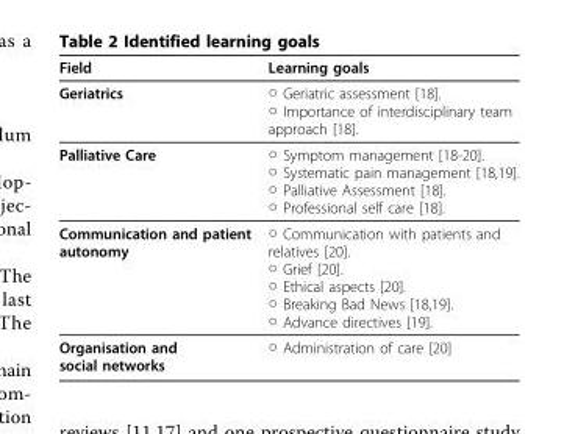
<table><thead><tr><td>Field</td><td>Learning goals</td></tr></thead><tbody><tr><td>Geriatrics</td><td>○ Geriatric assessment [18]. ○ Importance of interdisciplinary team approach [18].</td></tr><tr><td>Palliative Care</td><td>○ Symptom management [18-20]. ○ Systematic pain management [18,19]. ○ Palliative Assessment [18]. ○ Professional self care [18].</td></tr><tr><td>Communication and patient autonomy</td><td>○ Communication with patients and relatives [20]. ○ Grief [20]. ○ Ethical aspects [20]. ○ Breaking Bad News [18,19]. ○ Advance directives [19].</td></tr><tr><td>Organisation and social networks</td><td>○ Administration of care [20]</td></tr></tbody></table>